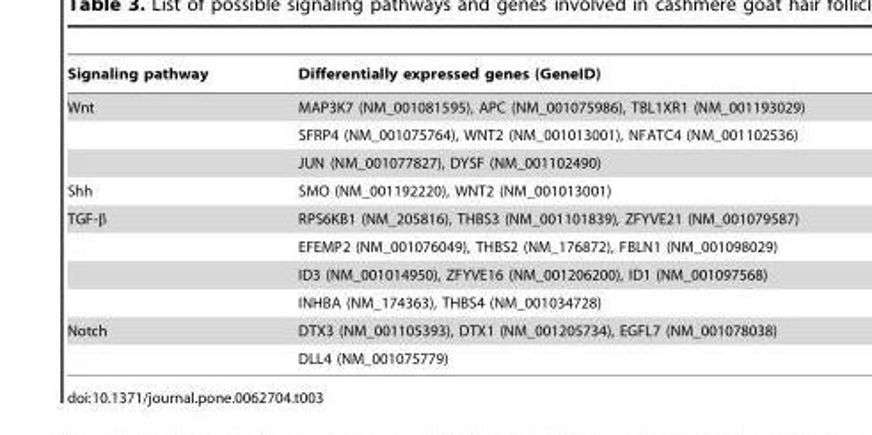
<table><thead><tr><td>Signaling pathway</td><td>Differentially expressed genes (GeneID)</td></tr></thead><tbody><tr><td rowspan="3">Wnt</td><td>MAP3K7 (NM_001081595), APC (NM_001075986), TBL1XR1 (NM_001193029)</td></tr><tr><td>SFRP4 (NM_001075764), WNT2 (NM_001013001), NFATC4 (NM_001102536)</td></tr><tr><td>JUN (NM_001077827), DYSF (NM_001102490)</td></tr><tr><td>Shh</td><td>SMO (NM_001192220), WNT2 (NM_001013001)</td></tr><tr><td rowspan="4">TGF-β</td><td>RPS6KB1 (NM_205816), THBS3 (NM_001101839), ZFYVE21 (NM_001079587)</td></tr><tr><td>EFEMP2 (NM_001076049), THBS2 (NM_176872), FBLN1 (NM_001098029)</td></tr><tr><td>ID3 (NM_001014950), ZFYVE16 (NM_001206200), ID1 (NM_001097568)</td></tr><tr><td>INHBA (NM_174363), THBS4 (NM_001034728)</td></tr><tr><td rowspan="2">Notch</td><td>DTX3 (NM_001105393), DTX1 (NM_001205734), EGFL7 (NM_001078038)</td></tr><tr><td>DLL4 (NM_001075779)</td></tr></tbody></table>